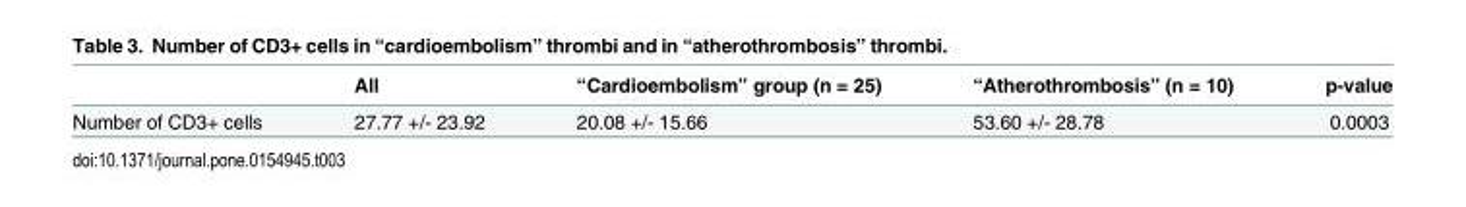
<table><thead><tr><td></td><td>All</td><td>“Cardioembolism” group (n = 25)</td><td>“Atherothrombosis” (n = 10)</td><td>p-value</td></tr></thead><tbody><tr><td>Number of CD3+ cells</td><td>27.77 +/- 23.92</td><td>20.08 +/- 15.66</td><td>53.60 +/- 28.78</td><td>0.0003</td></tr></tbody></table>